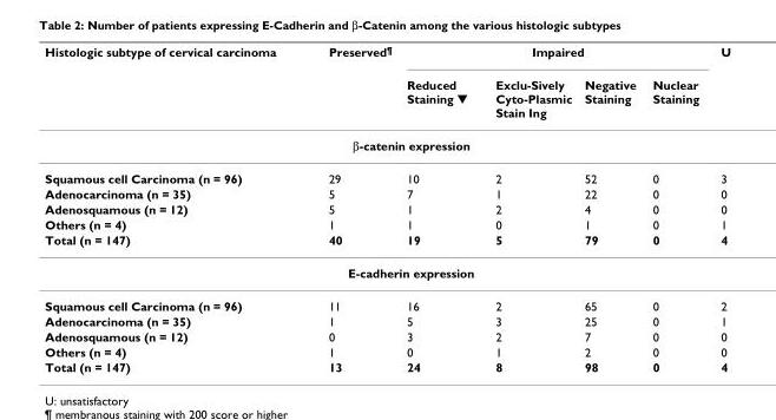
<table><thead><tr><td rowspan="2">Histologic subtype of cervical carcinoma</td><td rowspan="2">Preserved<sup>¶</sup></td><td colspan="4">Impaired</td><td rowspan="2">U</td></tr><tr><td>Reduced Staining ▼</td><td>Exclu-Sively Cyto-Plasmic Stain Ing</td><td>Negative Staining</td><td>Nuclear Staining</td></tr></thead><tbody><tr><td colspan="7">β-catenin expression</td></tr><tr><td>Squamous cell Carcinoma (n = 96)</td><td>29</td><td>10</td><td>2</td><td>52</td><td>0</td><td>3</td></tr><tr><td>Adenocarcinoma (n = 35)</td><td>5</td><td>7</td><td>1</td><td>22</td><td>0</td><td>0</td></tr><tr><td>Adenosquamous (n = 12)</td><td>5</td><td>1</td><td>2</td><td>4</td><td>0</td><td>0</td></tr><tr><td>Others (n = 4)</td><td>1</td><td>1</td><td>0</td><td>1</td><td>0</td><td>1</td></tr><tr><td>Total (n = 147)</td><td>40</td><td>19</td><td>5</td><td>79</td><td>0</td><td>4</td></tr><tr><td colspan="7">E-cadherin expression</td></tr><tr><td>Squamous cell Carcinoma (n = 96)</td><td>11</td><td>16</td><td>2</td><td>65</td><td>0</td><td>2</td></tr><tr><td>Adenocarcinoma (n = 35)</td><td>1</td><td>5</td><td>3</td><td>25</td><td>0</td><td>1</td></tr><tr><td>Adenosquamous (n = 12)</td><td>0</td><td>3</td><td>2</td><td>7</td><td>0</td><td>0</td></tr><tr><td>Others (n = 4)</td><td>1</td><td>0</td><td>1</td><td>2</td><td>0</td><td>0</td></tr><tr><td>Total (n = 147)</td><td>13</td><td>24</td><td>8</td><td>98</td><td>0</td><td>4</td></tr></tbody></table>